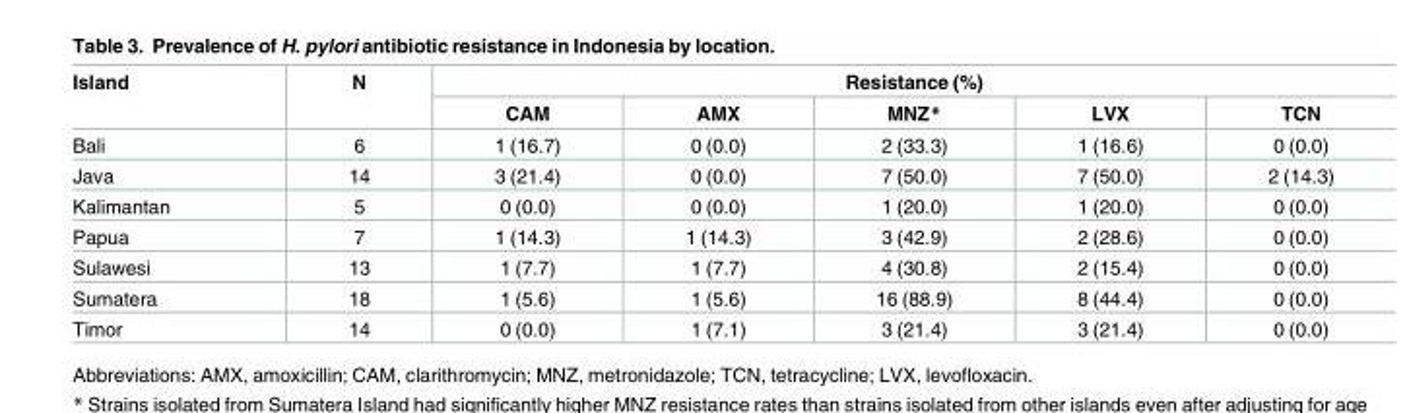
<table><thead><tr><td rowspan="2">Island</td><td rowspan="2">N</td><td colspan="5">Resistance (%)</td></tr><tr><td>CAM</td><td>AMX</td><td>MNZ*</td><td>LVX</td><td>TCN</td></tr></thead><tbody><tr><td>Bali</td><td>6</td><td>1 (16.7)</td><td>0 (0.0)</td><td>2 (33.3)</td><td>1 (16.6)</td><td>0 (0.0)</td></tr><tr><td>Java</td><td>14</td><td>3 (21.4)</td><td>0 (0.0)</td><td>7 (50.0)</td><td>7 (50.0)</td><td>2 (14.3)</td></tr><tr><td>Kalimantan</td><td>5</td><td>0 (0.0)</td><td>0 (0.0)</td><td>1 (20.0)</td><td>1 (20.0)</td><td>0 (0.0)</td></tr><tr><td>Papua</td><td>7</td><td>1 (14.3)</td><td>1 (14.3)</td><td>3 (42.9)</td><td>2 (28.6)</td><td>0 (0.0)</td></tr><tr><td>Sulawesi</td><td>13</td><td>1 (7.7)</td><td>1 (7.7)</td><td>4 (30.8)</td><td>2 (15.4)</td><td>0 (0.0)</td></tr><tr><td>Sumatera</td><td>18</td><td>1 (5.6)</td><td>1 (5.6)</td><td>16 (88.9)</td><td>8 (44.4)</td><td>0 (0.0)</td></tr><tr><td>Timor</td><td>14</td><td>0 (0.0)</td><td>1 (7.1)</td><td>3 (21.4)</td><td>3 (21.4)</td><td>0 (0.0)</td></tr></tbody></table>